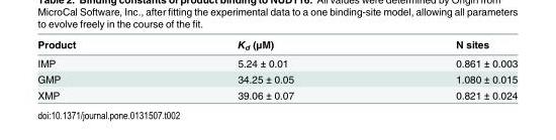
<table><thead><tr><td>Product</td><td>K<sub>d</sub> (μM)</td><td>N sites</td></tr></thead><tbody><tr><td>IMP</td><td>5.24 ± 0.01</td><td>0.861 ± 0.003</td></tr><tr><td>GMP</td><td>34.25 ± 0.05</td><td>1.080 ± 0.015</td></tr><tr><td>XMP</td><td>39.06 ± 0.07</td><td>0.821 ± 0.024</td></tr></tbody></table>